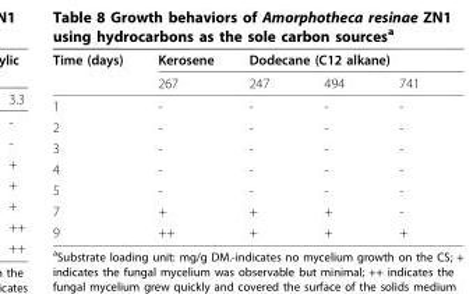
<table><thead><tr><td rowspan="2">Time (days)</td><td rowspan="2">Kerosene 267</td><td colspan="3">Dodecane (C12 alkane)</td></tr><tr><td>247</td><td>494</td><td>741</td></tr></thead><tbody><tr><td>1</td><td>-</td><td>-</td><td>-</td><td>-</td></tr><tr><td>2</td><td>-</td><td>-</td><td>-</td><td>-</td></tr><tr><td>3</td><td>-</td><td>-</td><td>-</td><td>-</td></tr><tr><td>4</td><td>-</td><td>-</td><td>-</td><td>-</td></tr><tr><td>5</td><td>-</td><td>-</td><td>-</td><td>-</td></tr><tr><td>7</td><td>+</td><td>+</td><td>+</td><td>-</td></tr><tr><td>9</td><td>++</td><td>+</td><td>+</td><td>+</td></tr></tbody></table>